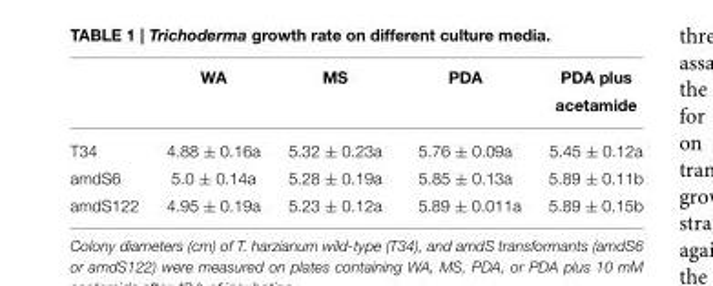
<table><thead><tr><td></td><td>WA</td><td>MS</td><td>PDA</td><td>PDA plus acetamide</td></tr></thead><tbody><tr><td>T34</td><td>4.88 ± 0.16a</td><td>5.32 ± 0.23a</td><td>5.76 ± 0.09a</td><td>5.45 ± 0.12a</td></tr><tr><td>amdS6</td><td>5.0 ± 0.14a</td><td>5.28 ± 0.19a</td><td>5.85 ± 0.13a</td><td>5.89 ± 0.11b</td></tr><tr><td>amdS122</td><td>4.95 ± 0.19a</td><td>5.23 ± 0.12a</td><td>5.89 ± 0.011a</td><td>5.89 ± 0.15b</td></tr></tbody></table>